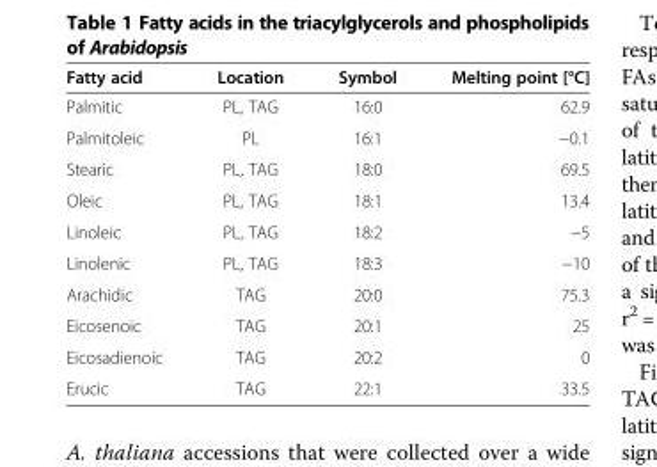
<table><thead><tr><td>Fatty acid</td><td>Location</td><td>Symbol</td><td>Melting point [°C]</td></tr></thead><tbody><tr><td>Palmitic</td><td>PL, TAG</td><td>16:0</td><td>62.9</td></tr><tr><td>Palmitoleic</td><td>PL</td><td>16:1</td><td>−0.1</td></tr><tr><td>Stearic</td><td>PL, TAG</td><td>18:0</td><td>69.5</td></tr><tr><td>Oleic</td><td>PL, TAG</td><td>18:1</td><td>13.4</td></tr><tr><td>Linoleic</td><td>PL, TAG</td><td>18:2</td><td>−5</td></tr><tr><td>Linolenic</td><td>PL, TAG</td><td>18:3</td><td>−10</td></tr><tr><td>Arachidic</td><td>TAG</td><td>20:0</td><td>75.3</td></tr><tr><td>Eicosenoic</td><td>TAG</td><td>20:1</td><td>25</td></tr><tr><td>Eicosadienoic</td><td>TAG</td><td>20:2</td><td>0</td></tr><tr><td>Erucic</td><td>TAG</td><td>22:1</td><td>33.5</td></tr></tbody></table>